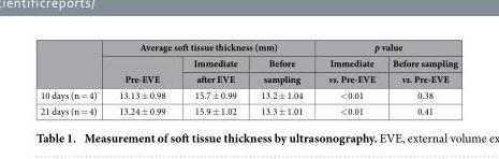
<table><thead><tr><td rowspan="3"></td><td colspan="3">Average soft tissue thickness (mm)</td><td colspan="2">p value</td></tr><tr><td rowspan="2">Pre-EVE</td><td rowspan="2">Immediate after EVE</td><td rowspan="2">Before sampling</td><td rowspan="2">Immediate vs. Pre-EVE</td><td rowspan="2">Before sampling vs. Pre-EVE</td></tr><tr></tr></thead><tbody><tr><td>10 days (n = 4)</td><td>13.13 ± 0.98</td><td>15.7 ± 0.99</td><td>13.2 ± 1.04</td><td>&lt; 0.01</td><td>0.38</td></tr><tr><td>21 days (n = 4)</td><td>13.24 ± 0.99</td><td>15.9 ± 1.02</td><td>13.3 ± 1.01</td><td>&lt; 0.01</td><td>0.41</td></tr></tbody></table>